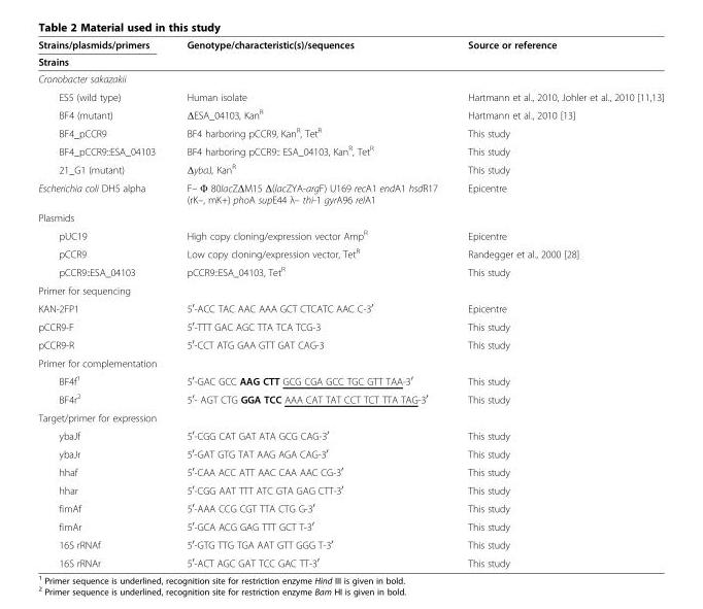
<table><thead><tr><td rowspan="2">Strains/plasmids/primers Strains</td><td rowspan="2">Genotype/characteristic(s)/sequences</td><td rowspan="2">Source or reference</td></tr><tr></tr></thead><tbody><tr><td colspan="3">Cronobacter sakazakii</td></tr><tr><td>ES5 (wild type)</td><td>Human isolate</td><td>Hartmann et al., 2010, Johler et al., 2010 [11,13]</td></tr><tr><td>BF4 (mutant)</td><td>ΔESA_04103, Kan<sup>R</sup></td><td>Hartmann et al., 2010 [13]</td></tr><tr><td>BF4_pCCR9</td><td>BF4 harboring pCCR9, Kan<sup>R</sup>, Tet<sup>R</sup></td><td>This study</td></tr><tr><td>BF4_pCCR9::ESA_04103</td><td>BF4 harboring pCCR9:: ESA_04103, Kan<sup>R</sup>, Tet<sup>R</sup></td><td>This study</td></tr><tr><td>21_G1 (mutant)</td><td>ΔybaJ, Kan<sup>R</sup></td><td>This study</td></tr><tr><td>Escherichia coli DH5 alpha</td><td>F– Φ 80lacZΔM15 Δ(lacZYA-argF) U169 recA1 endA1 hsdR17 (rK–, mK+) phoA supE44 λ– thi-1 gyrA96 relA1</td><td>Epicentre</td></tr><tr><td colspan="3">Plasmids</td></tr><tr><td>pUC19</td><td>High copy cloning/expression vector Amp<sup>R</sup></td><td>Epicentre</td></tr><tr><td>pCCR9</td><td>Low copy cloning/expression vector, Tet<sup>R</sup></td><td>Randegger et al., 2000 [28]</td></tr><tr><td>pCCR9::ESA_04103</td><td>pCCR9::ESA_04103, Tet<sup>R</sup></td><td>This study</td></tr><tr><td colspan="3">Primer for sequencing</td></tr><tr><td>KAN-2FP1</td><td>5<sup>′</sup>-ACC TAC AAC AAA GCT CTCATC AAC C-3<sup>′</sup></td><td>Epicentre</td></tr><tr><td>pCCR9-F</td><td>5<sup>′</sup>-TTT GAC AGC TTA TCA TCG-3</td><td>This study</td></tr><tr><td>pCCR9-R</td><td>5<sup>′</sup>-CCT ATG GAA GTT GAT CAG-3</td><td>This study</td></tr><tr><td colspan="3">Primer for complementation</td></tr><tr><td>BF4f<sup>1</sup></td><td>5<sup>′</sup>-GAC GCC AAG CTT GCG CGA GCC TGC GTT TAA-3<sup>′</sup></td><td>This study</td></tr><tr><td>BF4r<sup>2</sup></td><td>5<sup>′</sup>- AGT CTG GGA TCC AAA CAT TAT CCT TCT TTA TAG-3<sup>′</sup></td><td>This study</td></tr><tr><td colspan="3">Target/primer for expression</td></tr><tr><td>ybaJf</td><td>5<sup>′</sup>-CGG CAT GAT ATA GCG CAG-3<sup>′</sup></td><td>This study</td></tr><tr><td>ybaJr</td><td>5<sup>′</sup>-GAT GTG TAT AAG AGA CAG-3<sup>′</sup></td><td>This study</td></tr><tr><td>hhaf</td><td>5<sup>′</sup>-CAA ACC ATT AAC CAA AAC CG-3<sup>′</sup></td><td>This study</td></tr><tr><td>hhar</td><td>5<sup>′</sup>-CGG AAT TTT ATC GTA GAG CTT-3<sup>′</sup></td><td>This study</td></tr><tr><td>fimAf</td><td>5<sup>′</sup>-AAA CCG CGT TTA CTG G-3<sup>′</sup></td><td>This study</td></tr><tr><td>fimAr</td><td>5<sup>′</sup>-GCA ACG GAG TTT GCT T-3<sup>′</sup></td><td>This study</td></tr><tr><td>16S rRNAf</td><td>5<sup>′</sup>-GTG TTG TGA AAT GTT GGG T-3<sup>′</sup></td><td>This study</td></tr><tr><td>16S rRNAr</td><td>5<sup>′</sup>-ACT AGC GAT TCC GAC TT-3<sup>′</sup></td><td>This study</td></tr></tbody></table>